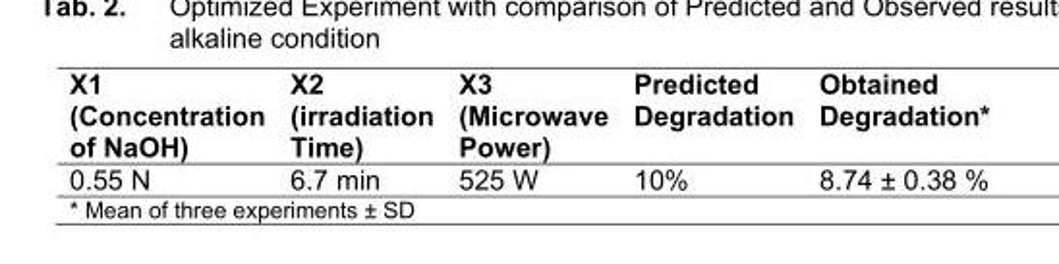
<table><thead><tr><td>X1 (Concentration of NaOH)</td><td>X2 (irradiation Time)</td><td>X3 (Microwave Power)</td><td>Predicted Degradation</td><td>Obtained Degradation*</td></tr></thead><tbody><tr><td>0.55 N</td><td>6.7 min</td><td>525 W</td><td>10%</td><td>8.74 ± 0.38 %</td></tr></tbody></table>